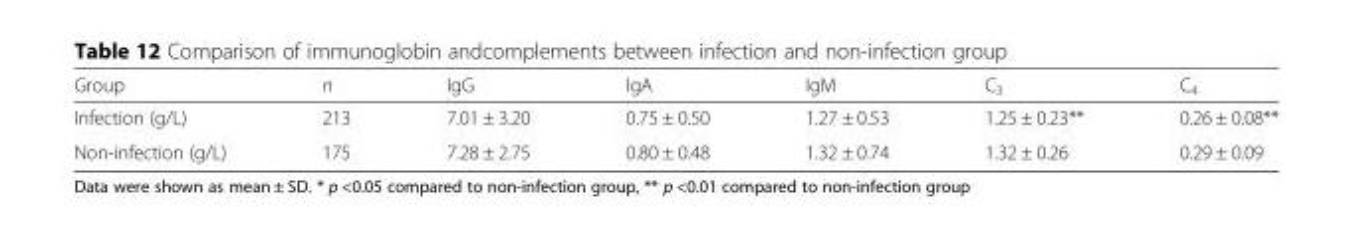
<table><thead><tr><td>Group</td><td>n</td><td>IgG</td><td>IgA</td><td>IgM</td><td>C<sub>3</sub></td><td>C<sub>4</sub></td></tr></thead><tbody><tr><td>Infection (g/L)</td><td>213</td><td>7.01 ± 3.20</td><td>0.75 ± 0.50</td><td>1.27 ± 0.53</td><td>1.25 ± 0.23**</td><td>0.26 ± 0.08**</td></tr><tr><td>Non-infection (g/L)</td><td>175</td><td>7.28 ± 2.75</td><td>0.80 ± 0.48</td><td>1.32 ± 0.74</td><td>1.32 ± 0.26</td><td>0.29 ± 0.09</td></tr></tbody></table>